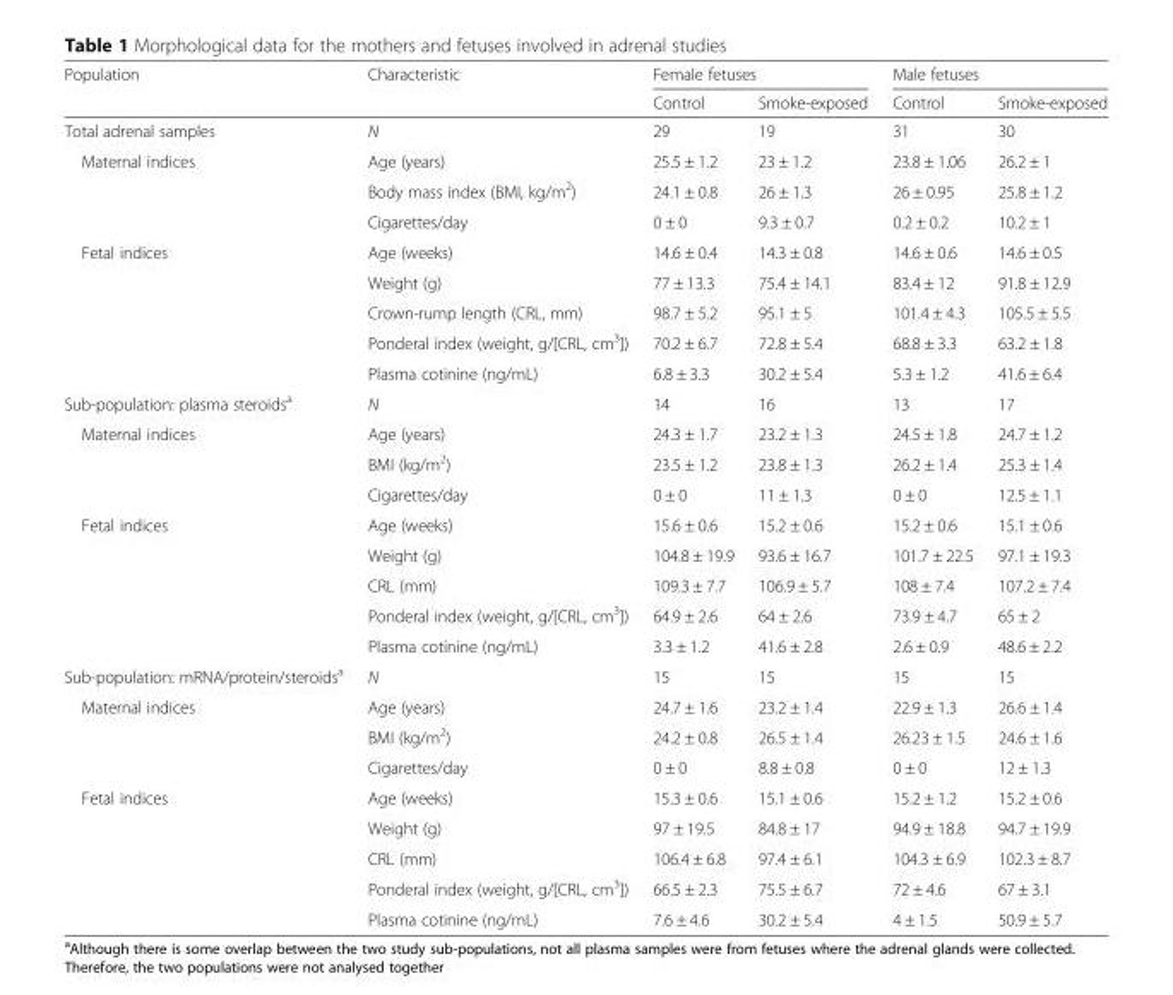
<table><thead><tr><td rowspan="2">Population</td><td rowspan="2">Characteristic</td><td colspan="2">Female fetuses</td><td colspan="2">Male fetuses</td></tr><tr><td>Control</td><td>Smoke-exposed</td><td>Control</td><td>Smoke-exposed</td></tr></thead><tbody><tr><td>Total adrenal samples</td><td>N</td><td>29</td><td>19</td><td>31</td><td>30</td></tr><tr><td rowspan="3">Maternal indices</td><td>Age (years)</td><td>25.5 ± 1.2</td><td>23 ± 1.2</td><td>23.8 ± 1.06</td><td>26.2 ± 1</td></tr><tr><td>Body mass index (BMI, kg/m<sup>2</sup>)</td><td>24.1 ± 0.8</td><td>26 ± 1.3</td><td>26 ± 0.95</td><td>25.8 ± 1.2</td></tr><tr><td>Cigarettes/day</td><td>0 ± 0</td><td>9.3 ± 0.7</td><td>0.2 ± 0.2</td><td>10.2 ± 1</td></tr><tr><td rowspan="5">Fetal indices</td><td>Age (weeks)</td><td>14.6 ± 0.4</td><td>14.3 ± 0.8</td><td>14.6 ± 0.6</td><td>14.6 ± 0.5</td></tr><tr><td>Weight (g)</td><td>77 ± 13.3</td><td>75.4 ± 14.1</td><td>83.4 ± 12</td><td>91.8 ± 12.9</td></tr><tr><td>Crown-rump length (CRL, mm)</td><td>98.7 ± 5.2</td><td>95.1 ± 5</td><td>101.4 ± 4.3</td><td>105.5 ± 5.5</td></tr><tr><td>Ponderal index (weight, g/[CRL, cm<sup>3</sup>])</td><td>70.2 ± 6.7</td><td>72.8 ± 5.4</td><td>68.8 ± 3.3</td><td>63.2 ± 1.8</td></tr><tr><td>Plasma cotinine (ng/mL)</td><td>6.8 ± 3.3</td><td>30.2 ± 5.4</td><td>5.3 ± 1.2</td><td>41.6 ± 6.4</td></tr><tr><td>Sub-population: plasma steroids<sup>a</sup></td><td>N</td><td>14</td><td>16</td><td>13</td><td>17</td></tr><tr><td rowspan="3">Maternal indices</td><td>Age (years)</td><td>24.3 ± 1.7</td><td>23.2 ± 1.3</td><td>24.5 ± 1.8</td><td>24.7 ± 1.2</td></tr><tr><td>BMI (kg/m<sup>2</sup>)</td><td>23.5 ± 1.2</td><td>23.8 ± 1.3</td><td>26.2 ± 1.4</td><td>25.3 ± 1.4</td></tr><tr><td>Cigarettes/day</td><td>0 ± 0</td><td>11 ± 1.3</td><td>0 ± 0</td><td>12.5 ± 1.1</td></tr><tr><td rowspan="5">Fetal indices</td><td>Age (weeks)</td><td>15.6 ± 0.6</td><td>15.2 ± 0.6</td><td>15.2 ± 0.6</td><td>15.1 ± 0.6</td></tr><tr><td>Weight (g)</td><td>104.8 ± 19.9</td><td>93.6 ± 16.7</td><td>101.7 ± 22.5</td><td>97.1 ± 19.3</td></tr><tr><td>CRL (mm)</td><td>109.3 ± 7.7</td><td>106.9 ± 5.7</td><td>108 ± 7.4</td><td>107.2 ± 7.4</td></tr><tr><td>Ponderal index (weight, g/[CRL, cm<sup>3</sup>])</td><td>64.9 ± 2.6</td><td>64 ± 2.6</td><td>73.9 ± 4.7</td><td>65 ± 2</td></tr><tr><td>Plasma cotinine (ng/mL)</td><td>3.3 ± 1.2</td><td>41.6 ± 2.8</td><td>2.6 ± 0.9</td><td>48.6 ± 2.2</td></tr><tr><td>Sub-population: mRNA/protein/steroids<sup>a</sup></td><td>N</td><td>15</td><td>15</td><td>15</td><td>15</td></tr><tr><td rowspan="3">Maternal indices</td><td>Age (years)</td><td>24.7 ± 1.6</td><td>23.2 ± 1.4</td><td>22.9 ± 1.3</td><td>26.6 ± 1.4</td></tr><tr><td>BMI (kg/m<sup>2</sup>)</td><td>24.2 ± 0.8</td><td>26.5 ± 1.4</td><td>26.23 ± 1.5</td><td>24.6 ± 1.6</td></tr><tr><td>Cigarettes/day</td><td>0 ± 0</td><td>8.8 ± 0.8</td><td>0 ± 0</td><td>12 ± 1.3</td></tr><tr><td rowspan="5">Fetal indices</td><td>Age (weeks)</td><td>15.3 ± 0.6</td><td>15.1 ± 0.6</td><td>15.2 ± 1.2</td><td>15.2 ± 0.6</td></tr><tr><td>Weight (g)</td><td>97 ± 19.5</td><td>84.8 ± 17</td><td>94.9 ± 18.8</td><td>94.7 ± 19.9</td></tr><tr><td>CRL (mm)</td><td>106.4 ± 6.8</td><td>97.4 ± 6.1</td><td>104.3 ± 6.9</td><td>102.3 ± 8.7</td></tr><tr><td>Ponderal index (weight, g/[CRL, cm<sup>3</sup>])</td><td>66.5 ± 2.3</td><td>75.5 ± 6.7</td><td>72 ± 4.6</td><td>67 ± 3.1</td></tr><tr><td>Plasma cotinine (ng/mL)</td><td>7.6 ± 4.6</td><td>30.2 ± 5.4</td><td>4 ± 1.5</td><td>50.9 ± 5.7</td></tr></tbody></table>